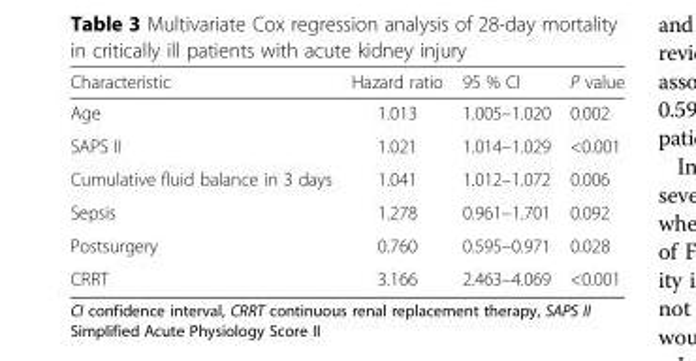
<table><thead><tr><td>Characteristic</td><td>Hazard ratio</td><td>95 % CI</td><td>P value</td></tr></thead><tbody><tr><td>Age</td><td>1.013</td><td>1.005–1.020</td><td>0.002</td></tr><tr><td>SAPS II</td><td>1.021</td><td>1.014–1.029</td><td>&lt;0.001</td></tr><tr><td>Cumulative fluid balance in 3 days</td><td>1.041</td><td>1.012–1.072</td><td>0.006</td></tr><tr><td>Sepsis</td><td>1.278</td><td>0.961–1.701</td><td>0.092</td></tr><tr><td>Postsurgery</td><td>0.760</td><td>0.595–0.971</td><td>0.028</td></tr><tr><td>CRRT</td><td>3.166</td><td>2.463–4.069</td><td>&lt;0.001</td></tr></tbody></table>